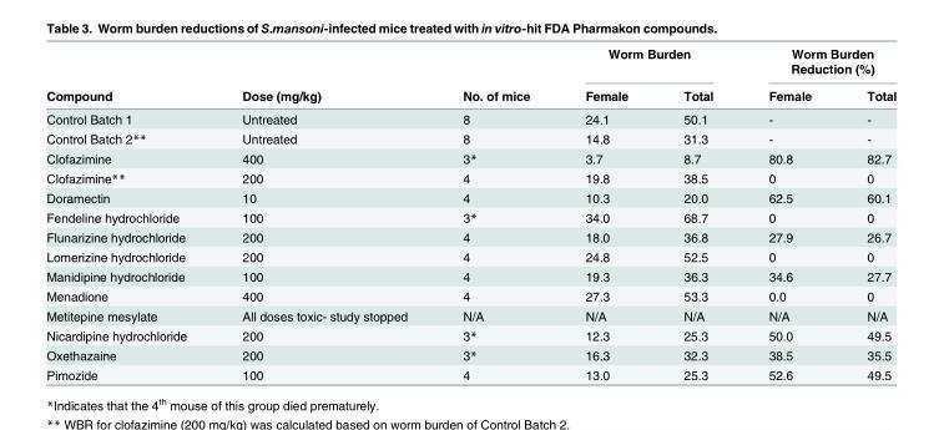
<table><thead><tr><td rowspan="2">Compound</td><td rowspan="2">Dose (mg/kg)</td><td rowspan="2">No. of mice</td><td colspan="2">Worm Burden</td><td colspan="2">Worm Burden Reduction (%)</td></tr><tr><td>Female</td><td>Total</td><td>Female</td><td>Total</td></tr></thead><tbody><tr><td>Control Batch 1</td><td>Untreated</td><td>8</td><td>24.1</td><td>50.1</td><td>-</td><td>-</td></tr><tr><td>Control Batch 2**</td><td>Untreated</td><td>8</td><td>14.8</td><td>31.3</td><td>-</td><td>-</td></tr><tr><td>Clofazimine</td><td>400</td><td>3*</td><td>3.7</td><td>8.7</td><td>80.8</td><td>82.7</td></tr><tr><td>Clofazimine**</td><td>200</td><td>4</td><td>19.8</td><td>38.5</td><td>0</td><td>0</td></tr><tr><td>Doramectin</td><td>10</td><td>4</td><td>10.3</td><td>20.0</td><td>62.5</td><td>60.1</td></tr><tr><td>Fendeline hydrochloride</td><td>100</td><td>3*</td><td>34.0</td><td>68.7</td><td>0</td><td>0</td></tr><tr><td>Flunarizine hydrochloride</td><td>200</td><td>4</td><td>18.0</td><td>36.8</td><td>27.9</td><td>26.7</td></tr><tr><td>Lomerizine hydrochloride</td><td>200</td><td>4</td><td>24.8</td><td>52.5</td><td>0</td><td>0</td></tr><tr><td>Manidipine hydrochloride</td><td>100</td><td>4</td><td>19.3</td><td>36.3</td><td>34.6</td><td>27.7</td></tr><tr><td>Menadione</td><td>400</td><td>4</td><td>27.3</td><td>53.3</td><td>0.0</td><td>0</td></tr><tr><td>Metitepine mesylate</td><td>All doses toxic- study stopped</td><td>N/A</td><td>N/A</td><td>N/A</td><td>N/A</td><td>N/A</td></tr><tr><td>Nicardipine hydrochloride</td><td>200</td><td>3*</td><td>12.3</td><td>25.3</td><td>50.0</td><td>49.5</td></tr><tr><td>Oxethazaine</td><td>200</td><td>3*</td><td>16.3</td><td>32.3</td><td>38.5</td><td>35.5</td></tr><tr><td>Pimozide</td><td>100</td><td>4</td><td>13.0</td><td>25.3</td><td>52.6</td><td>49.5</td></tr></tbody></table>